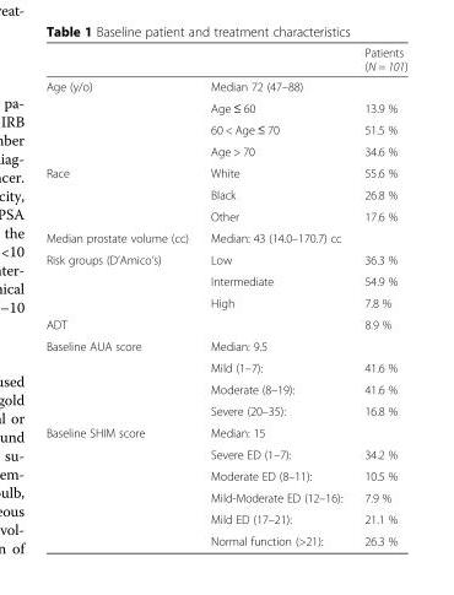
<table><thead><tr><td></td><td></td><td>Patients (N = 101)</td></tr></thead><tbody><tr><td rowspan="4">Age (y/o)</td><td>Median 72 (47–88)</td><td></td></tr><tr><td>Age ≤ 60</td><td>13.9 %</td></tr><tr><td>60 &lt; Age ≤ 70</td><td>51.5 %</td></tr><tr><td>Age &gt; 70</td><td>34.6 %</td></tr><tr><td rowspan="3">Race</td><td>White</td><td>55.6 %</td></tr><tr><td>Black</td><td>26.8 %</td></tr><tr><td>Other</td><td>17.6 %</td></tr><tr><td>Median prostate volume (cc)</td><td>Median: 43 (14.0–170.7) cc</td><td></td></tr><tr><td rowspan="3">Risk groups (D’Amico’s)</td><td>Low</td><td>36.3 %</td></tr><tr><td>Intermediate</td><td>54.9 %</td></tr><tr><td>High</td><td>7.8 %</td></tr><tr><td>ADT</td><td></td><td>8.9 %</td></tr><tr><td rowspan="4">Baseline AUA score</td><td>Median: 9.5</td><td></td></tr><tr><td>Mild (1–7):</td><td>41.6 %</td></tr><tr><td>Moderate (8–19):</td><td>41.6 %</td></tr><tr><td>Severe (20–35):</td><td>16.8 %</td></tr><tr><td rowspan="6">Baseline SHIM score</td><td>Median: 15</td><td></td></tr><tr><td>Severe ED (1–7):</td><td>34.2 %</td></tr><tr><td>Moderate ED (8–11):</td><td>10.5 %</td></tr><tr><td>Mild-Moderate ED (12–16):</td><td>7.9 %</td></tr><tr><td>Mild ED (17–21):</td><td>21.1 %</td></tr><tr><td>Normal function (&gt;21):</td><td>26.3 %</td></tr></tbody></table>